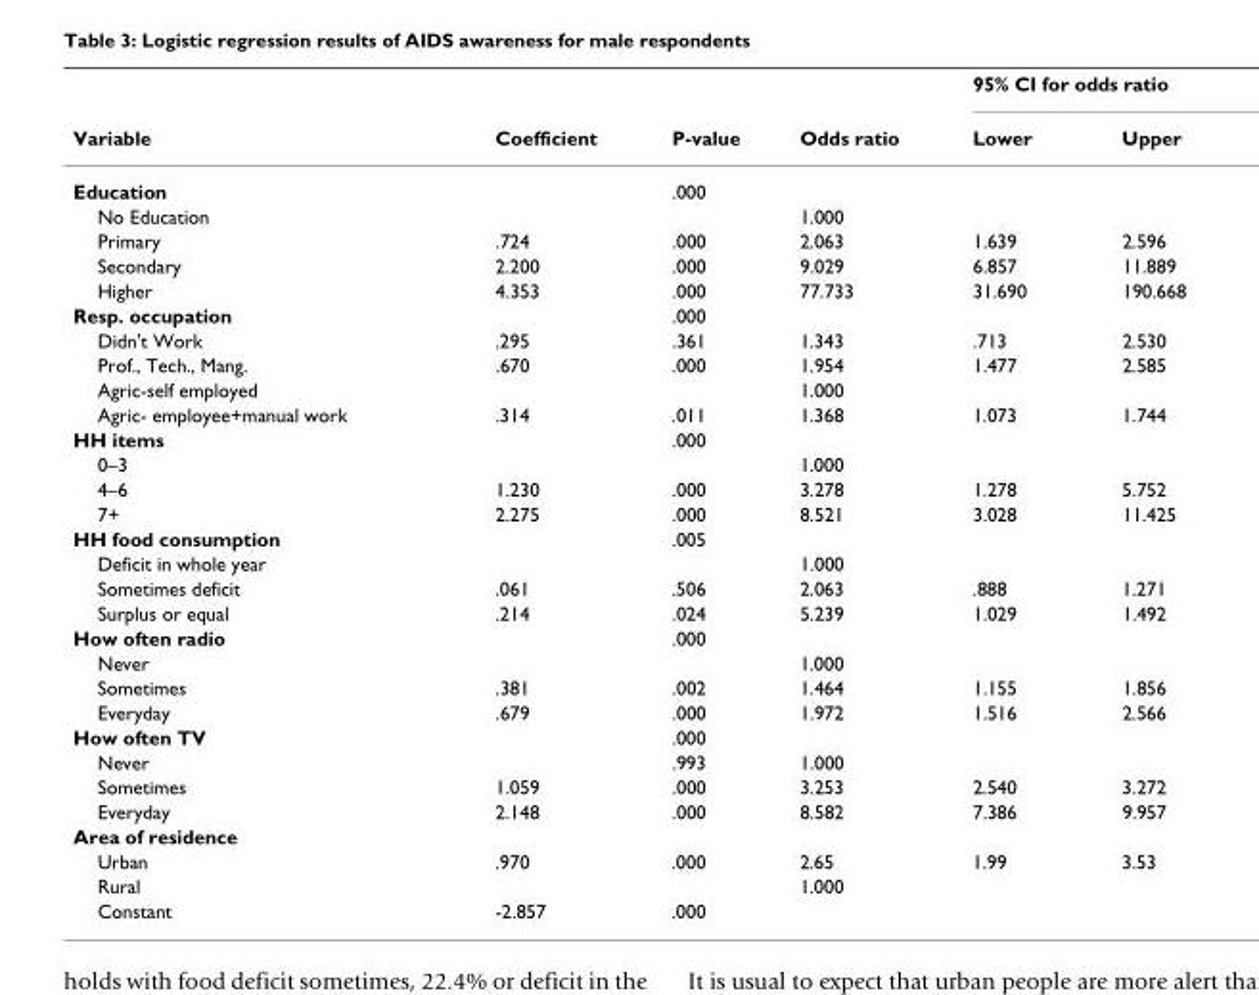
<table><thead><tr><td rowspan="2">Variable</td><td rowspan="2">Coefficient</td><td rowspan="2">P-value</td><td rowspan="2">Odds ratio</td><td colspan="2">95% CI for odds ratio</td></tr><tr><td>Lower</td><td>Upper</td></tr></thead><tbody><tr><td>Education</td><td></td><td>.000</td><td></td><td></td><td></td></tr><tr><td>No Education</td><td></td><td></td><td>1.000</td><td></td><td></td></tr><tr><td>Primary</td><td>.724</td><td>.000</td><td>2.063</td><td>1.639</td><td>2.596</td></tr><tr><td>Secondary</td><td>2.200</td><td>.000</td><td>9.029</td><td>6.857</td><td>11.889</td></tr><tr><td>Higher</td><td>4.353</td><td>.000</td><td>77.733</td><td>31.690</td><td>190.668</td></tr><tr><td>Resp. occupation</td><td></td><td>.000</td><td></td><td></td><td></td></tr><tr><td>Didn&#x27;t Work</td><td>.295</td><td>.361</td><td>1.343</td><td>.713</td><td>2.530</td></tr><tr><td>Prof., Tech., Mang.</td><td>.670</td><td>.000</td><td>1.954</td><td>1.477</td><td>2.585</td></tr><tr><td>Agric-self employed</td><td></td><td></td><td>1.000</td><td></td><td></td></tr><tr><td>Agric- employee+manual work</td><td>.314</td><td>.011</td><td>1.368</td><td>1.073</td><td>1.744</td></tr><tr><td>HH items</td><td></td><td>.000</td><td></td><td></td><td></td></tr><tr><td>0–3</td><td></td><td></td><td>1.000</td><td></td><td></td></tr><tr><td>4–6</td><td>1.230</td><td>.000</td><td>3.278</td><td>1.278</td><td>5.752</td></tr><tr><td>7+</td><td>2.275</td><td>.000</td><td>8.521</td><td>3.028</td><td>11.425</td></tr><tr><td>HH food consumption</td><td></td><td>.005</td><td></td><td></td><td></td></tr><tr><td>Deficit in whole year</td><td></td><td></td><td>1.000</td><td></td><td></td></tr><tr><td>Sometimes deficit</td><td>.061</td><td>.506</td><td>2.063</td><td>.888</td><td>1.271</td></tr><tr><td>Surplus or equal</td><td>.214</td><td>.024</td><td>5.239</td><td>1.029</td><td>1.492</td></tr><tr><td>How often radio</td><td></td><td>.000</td><td></td><td></td><td></td></tr><tr><td>Never</td><td></td><td></td><td>1.000</td><td></td><td></td></tr><tr><td>Sometimes</td><td>.381</td><td>.002</td><td>1.464</td><td>1.155</td><td>1.856</td></tr><tr><td>Everyday</td><td>.679</td><td>.000</td><td>1.972</td><td>1.516</td><td>2.566</td></tr><tr><td>How often TV</td><td></td><td>.000</td><td></td><td></td><td></td></tr><tr><td>Never</td><td></td><td>.993</td><td>1.000</td><td></td><td></td></tr><tr><td>Sometimes</td><td>1.059</td><td>.000</td><td>3.253</td><td>2.540</td><td>3.272</td></tr><tr><td>Everyday</td><td>2.148</td><td>.000</td><td>8.582</td><td>7.386</td><td>9.957</td></tr><tr><td colspan="6">Area of residence</td></tr><tr><td>Urban</td><td>.970</td><td>.000</td><td>2.65</td><td>1.99</td><td>3.53</td></tr><tr><td>Rural</td><td></td><td></td><td>1.000</td><td></td><td></td></tr><tr><td>Constant</td><td>-2.857</td><td>.000</td><td></td><td></td><td></td></tr></tbody></table>